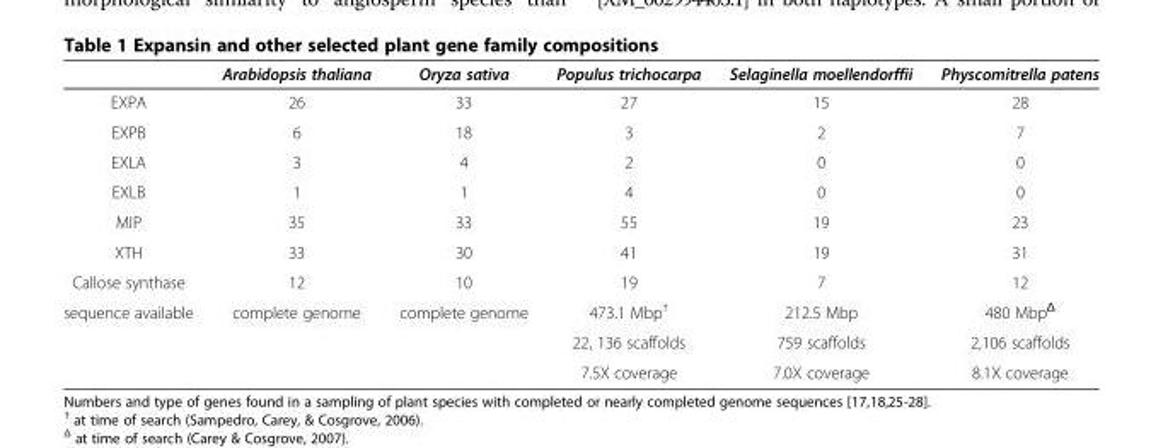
<table><thead><tr><td></td><td>Arabidopsis thaliana</td><td>Oryza sativa</td><td>Populus trichocarpa</td><td>Selaginella moellendorffii</td><td>Physcomitrella patens</td></tr></thead><tbody><tr><td>EXPA</td><td>26</td><td>33</td><td>27</td><td>15</td><td>28</td></tr><tr><td>EXPB</td><td>6</td><td>18</td><td>3</td><td>2</td><td>7</td></tr><tr><td>EXLA</td><td>3</td><td>4</td><td>2</td><td>0</td><td>0</td></tr><tr><td>EXLB</td><td>1</td><td>1</td><td>4</td><td>0</td><td>0</td></tr><tr><td>MIP</td><td>35</td><td>33</td><td>55</td><td>19</td><td>23</td></tr><tr><td>XTH</td><td>33</td><td>30</td><td>41</td><td>19</td><td>31</td></tr><tr><td>Callose synthase</td><td>12</td><td>10</td><td>19</td><td>7</td><td>12</td></tr><tr><td>sequence available</td><td>complete genome</td><td>complete genome</td><td>473.1 Mbp<sup>†</sup></td><td>212.5 Mbp</td><td>480 Mbp<sup>Δ</sup></td></tr><tr><td rowspan="2" colspan="3"></td><td>22, 136 scaffolds</td><td>759 scaffolds</td><td>2,106 scaffolds</td></tr><tr><td>7.5X coverage</td><td>7.0X coverage</td><td>8.1X coverage</td></tr></tbody></table>